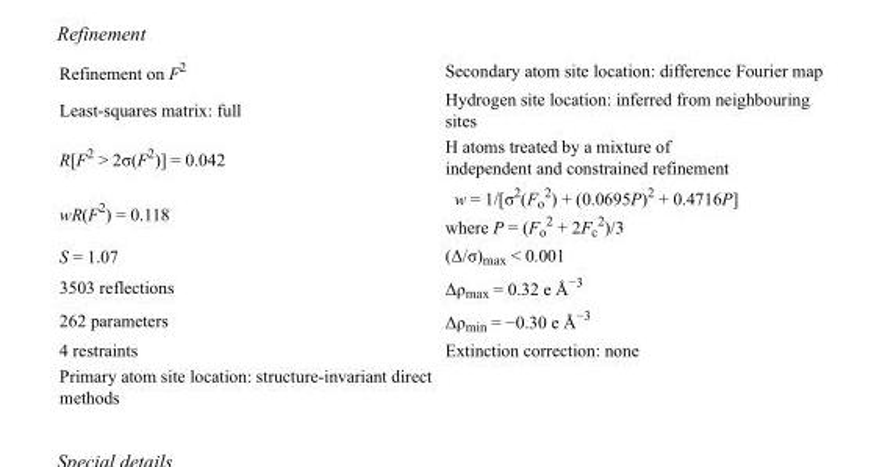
<table><tbody><tr><td>Refinement on F<sup>2</sup></td><td>Secondary atom site location: difference Fourier map</td></tr><tr><td>Least-squares matrix: full</td><td>Hydrogen site location: inferred from neighbouring sites</td></tr><tr><td>R[F<sup>2</sup> &gt; 2σ(F<sup>2</sup>)] = 0.042</td><td>H atoms treated by a mixture of independent and constrained refinement</td></tr><tr><td>wR(F<sup>2</sup>) = 0.118</td><td>w = 1/[σ<sup>2</sup>(F<sub>o</sub> <sup>2</sup>) + (0.0695P)<sup>2</sup> + 0.4716P] where P = (F<sub>o</sub> <sup>2</sup> + 2F<sub>c</sub> <sup>2</sup>)/3</td></tr><tr><td>S = 1.07</td><td>(Δ/σ)<sub>max</sub> &lt; 0.001</td></tr><tr><td>3503 reflections</td><td>Δρ<sub>max</sub> = 0.32 e Å<sup>−3</sup></td></tr><tr><td>262 parameters</td><td>Δρ<sub>min</sub> = −0.30 e Å<sup>−3</sup></td></tr><tr><td>4 restraints</td><td>Extinction correction: none</td></tr><tr><td>Primary atom site location: structure-invariant direct methods</td><td></td></tr></tbody></table>